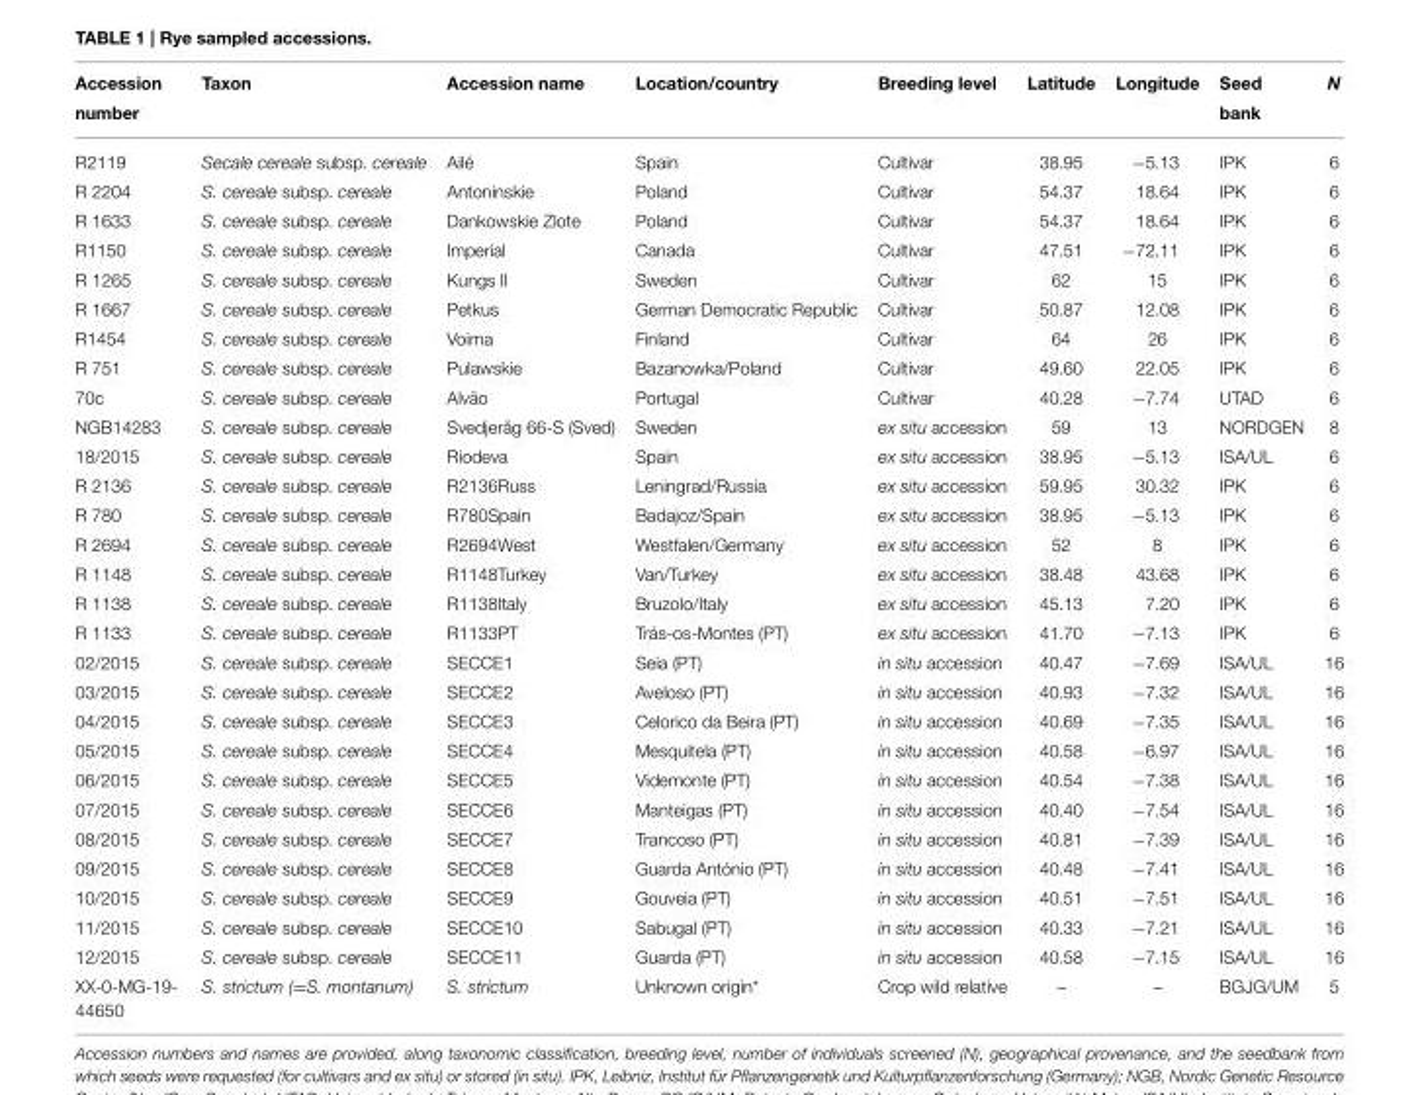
<table><thead><tr><td>Accession number</td><td>Taxon</td><td>Accession name</td><td>Location/country</td><td>Breeding level</td><td>Latitude</td><td>Longitude</td><td>Seed bank</td><td>N</td></tr></thead><tbody><tr><td>R2119</td><td>Secale cereale subsp. cereale</td><td>Ailé</td><td>Spain</td><td>Cultivar</td><td>38.95</td><td>−5.13</td><td>IPK</td><td>6</td></tr><tr><td>R 2204</td><td>S. cereale subsp. cereale</td><td>Antoninskie</td><td>Poland</td><td>Cultivar</td><td>54.37</td><td>18.64</td><td>IPK</td><td>6</td></tr><tr><td>R 1633</td><td>S. cereale subsp. cereale</td><td>Dankowskie Zlote</td><td>Poland</td><td>Cultivar</td><td>54.37</td><td>18.64</td><td>IPK</td><td>6</td></tr><tr><td>R1150</td><td>S. cereale subsp. cereale</td><td>Imperial</td><td>Canada</td><td>Cultivar</td><td>47.51</td><td>−72.11</td><td>IPK</td><td>6</td></tr><tr><td>R 1265</td><td>S. cereale subsp. cereale</td><td>Kungs II</td><td>Sweden</td><td>Cultivar</td><td>62</td><td>15</td><td>IPK</td><td>6</td></tr><tr><td>R 1667</td><td>S. cereale subsp. cereale</td><td>Petkus</td><td>German Democratic Republic</td><td>Cultivar</td><td>50.87</td><td>12.08</td><td>IPK</td><td>6</td></tr><tr><td>R1454</td><td>S. cereale subsp. cereale</td><td>Voima</td><td>Finland</td><td>Cultivar</td><td>64</td><td>26</td><td>IPK</td><td>6</td></tr><tr><td>R 751</td><td>S. cereale subsp. cereale</td><td>Pulawskie</td><td>Bazanowka/Poland</td><td>Cultivar</td><td>49.60</td><td>22.05</td><td>IPK</td><td>6</td></tr><tr><td>70c</td><td>S. cereale subsp. cereale</td><td>Alvão</td><td>Portugal</td><td>Cultivar</td><td>40.28</td><td>−7.74</td><td>UTAD</td><td>6</td></tr><tr><td>NGB14283</td><td>S. cereale subsp. cereale</td><td>Svedjeråg 66-S (Sved)</td><td>Sweden</td><td>ex situ accession</td><td>59</td><td>13</td><td>NORDGEN</td><td>8</td></tr><tr><td>18/2015</td><td>S. cereale subsp. cereale</td><td>Riodeva</td><td>Spain</td><td>ex situ accession</td><td>38.95</td><td>−5.13</td><td>ISA/UL</td><td>6</td></tr><tr><td>R 2136</td><td>S. cereale subsp. cereale</td><td>R2136Russ</td><td>Leningrad/Russia</td><td>ex situ accession</td><td>59.95</td><td>30.32</td><td>IPK</td><td>6</td></tr><tr><td>R 780</td><td>S. cereale subsp. cereale</td><td>R780Spain</td><td>Badajoz/Spain</td><td>ex situ accession</td><td>38.95</td><td>−5.13</td><td>IPK</td><td>6</td></tr><tr><td>R 2694</td><td>S. cereale subsp. cereale</td><td>R2694West</td><td>Westfalen/Germany</td><td>ex situ accession</td><td>52</td><td>8</td><td>IPK</td><td>6</td></tr><tr><td>R 1148</td><td>S. cereale subsp. cereale</td><td>R1148Turkey</td><td>Van/Turkey</td><td>ex situ accession</td><td>38.48</td><td>43.68</td><td>IPK</td><td>6</td></tr><tr><td>R 1138</td><td>S. cereale subsp. cereale</td><td>R1138Italy</td><td>Bruzolo/Italy</td><td>ex situ accession</td><td>45.13</td><td>7.20</td><td>IPK</td><td>6</td></tr><tr><td>R 1133</td><td>S. cereale subsp. cereale</td><td>R1133PT</td><td>Trás-os-Montes (PT)</td><td>ex situ accession</td><td>41.70</td><td>−7.13</td><td>IPK</td><td>6</td></tr><tr><td>02/2015</td><td>S. cereale subsp. cereale</td><td>SECCE1</td><td>Seia (PT)</td><td>in situ accession</td><td>40.47</td><td>−7.69</td><td>ISA/UL</td><td>16</td></tr><tr><td>03/2015</td><td>S. cereale subsp. cereale</td><td>SECCE2</td><td>Aveloso (PT)</td><td>in situ accession</td><td>40.93</td><td>−7.32</td><td>ISA/UL</td><td>16</td></tr><tr><td>04/2015</td><td>S. cereale subsp. cereale</td><td>SECCE3</td><td>Celorico da Beira (PT)</td><td>in situ accession</td><td>40.69</td><td>−7.35</td><td>ISA/UL</td><td>16</td></tr><tr><td>05/2015</td><td>S. cereale subsp. cereale</td><td>SECCE4</td><td>Mesquitela (PT)</td><td>in situ accession</td><td>40.58</td><td>−6.97</td><td>ISA/UL</td><td>16</td></tr><tr><td>06/2015</td><td>S. cereale subsp. cereale</td><td>SECCE5</td><td>Videmonte (PT)</td><td>in situ accession</td><td>40.54</td><td>−7.38</td><td>ISA/UL</td><td>16</td></tr><tr><td>07/2015</td><td>S. cereale subsp. cereale</td><td>SECCE6</td><td>Manteigas (PT)</td><td>in situ accession</td><td>40.40</td><td>−7.54</td><td>ISA/UL</td><td>16</td></tr><tr><td>08/2015</td><td>S. cereale subsp. cereale</td><td>SECCE7</td><td>Trancoso (PT)</td><td>in situ accession</td><td>40.81</td><td>−7.39</td><td>ISA/UL</td><td>16</td></tr><tr><td>09/2015</td><td>S. cereale subsp. cereale</td><td>SECCE8</td><td>Guarda António (PT)</td><td>in situ accession</td><td>40.48</td><td>−7.41</td><td>ISA/UL</td><td>16</td></tr><tr><td>10/2015</td><td>S. cereale subsp. cereale</td><td>SECCE9</td><td>Gouveia (PT)</td><td>in situ accession</td><td>40.51</td><td>−7.51</td><td>ISA/UL</td><td>16</td></tr><tr><td>11/2015</td><td>S. cereale subsp. cereale</td><td>SECCE10</td><td>Sabugal (PT)</td><td>in situ accession</td><td>40.33</td><td>−7.21</td><td>ISA/UL</td><td>16</td></tr><tr><td>12/2015</td><td>S. cereale subsp. cereale</td><td>SECCE11</td><td>Guarda (PT)</td><td>in situ accession</td><td>40.58</td><td>−7.15</td><td>ISA/UL</td><td>16</td></tr><tr><td>XX-0-MG-19- 44650</td><td>S. strictum (=S. montanum)</td><td>S. strictum</td><td>Unknown origin*</td><td>Crop wild relative</td><td>–</td><td>–</td><td>BGJG/UM</td><td>5</td></tr></tbody></table>